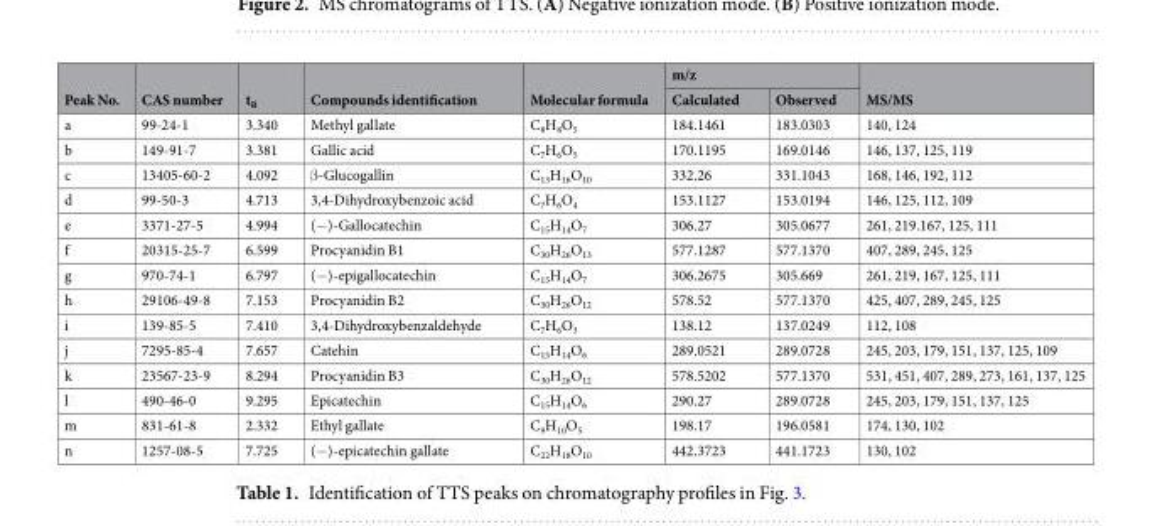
<table><thead><tr><td rowspan="2">Peak No.</td><td rowspan="2">CAS number</td><td rowspan="2">t<sub>R</sub></td><td rowspan="2">Compounds identification</td><td rowspan="2">Molecular formula</td><td colspan="2">m/z</td><td rowspan="2">MS/MS</td></tr><tr><td>Calculated</td><td>Observed</td></tr></thead><tbody><tr><td>a</td><td>99-24-1</td><td>3.340</td><td>Methyl gallate</td><td>C<sub>8</sub>H<sub>8</sub>O<sub>5</sub></td><td>184.1461</td><td>183.0303</td><td>140, 124</td></tr><tr><td>b</td><td>149-91-7</td><td>3.381</td><td>Gallic acid</td><td>C<sub>7</sub>H<sub>6</sub>O<sub>5</sub></td><td>170.1195</td><td>169.0146</td><td>146, 137, 125, 119</td></tr><tr><td>c</td><td>13405-60-2</td><td>4.092</td><td>β-Glucogallin</td><td>C<sub>13</sub>H<sub>16</sub>O<sub>10</sub></td><td>332.26</td><td>331.1043</td><td>168, 146, 192, 112</td></tr><tr><td>d</td><td>99-50-3</td><td>4.713</td><td>3,4-Dihydroxybenzoic acid</td><td>C<sub>7</sub>H<sub>6</sub>O<sub>4</sub></td><td>153.1127</td><td>153.0194</td><td>146, 125, 112, 109</td></tr><tr><td>e</td><td>3371-27-5</td><td>4.994</td><td>(−)-Gallocatechin</td><td>C<sub>15</sub>H<sub>14</sub>O<sub>7</sub></td><td>306.27</td><td>305.0677</td><td>261, 219.167, 125, 111</td></tr><tr><td>f</td><td>20315-25-7</td><td>6.599</td><td>Procyanidin B1</td><td>C<sub>30</sub>H<sub>26</sub>O<sub>13</sub></td><td>577.1287</td><td>577.1370</td><td>407, 289, 245, 125</td></tr><tr><td>g</td><td>970-74-1</td><td>6.797</td><td>(−)-epigallocatechin</td><td>C<sub>15</sub>H<sub>14</sub>O<sub>7</sub></td><td>306.2675</td><td>305.669</td><td>261, 219, 167, 125, 111</td></tr><tr><td>h</td><td>29106-49-8</td><td>7.153</td><td>Procyanidin B2</td><td>C<sub>30</sub>H<sub>26</sub>O<sub>12</sub></td><td>578.52</td><td>577.1370</td><td>425, 407, 289, 245, 125</td></tr><tr><td>i</td><td>139-85-5</td><td>7.410</td><td>3,4-Dihydroxybenzaldehyde</td><td>C<sub>7</sub>H<sub>6</sub>O<sub>3</sub></td><td>138.12</td><td>137.0249</td><td>112, 108</td></tr><tr><td>j</td><td>7295-85-4</td><td>7.657</td><td>Catehin</td><td>C<sub>15</sub>H<sub>14</sub>O<sub>6</sub></td><td>289.0521</td><td>289.0728</td><td>245, 203, 179, 151, 137, 125, 109</td></tr><tr><td>k</td><td>23567-23-9</td><td>8.294</td><td>Procyanidin B3</td><td>C<sub>30</sub>H<sub>26</sub>O<sub>12</sub></td><td>578.5202</td><td>577.1370</td><td>531, 451, 407, 289, 273, 161, 137, 125</td></tr><tr><td>l</td><td>490-46-0</td><td>9.295</td><td>Epicatechin</td><td>C<sub>15</sub>H<sub>14</sub>O<sub>6</sub></td><td>290.27</td><td>289.0728</td><td>245, 203, 179, 151, 137, 125</td></tr><tr><td>m</td><td>831-61-8</td><td>2.332</td><td>Ethyl gallate</td><td>C<sub>9</sub>H<sub>10</sub>O<sub>5</sub></td><td>198.17</td><td>196.0581</td><td>174, 130, 102</td></tr><tr><td>n</td><td>1257-08-5</td><td>7.725</td><td>(−)-epicatechin gallate</td><td>C<sub>22</sub>H<sub>18</sub>O<sub>10</sub></td><td>442.3723</td><td>441.1723</td><td>130, 102</td></tr></tbody></table>